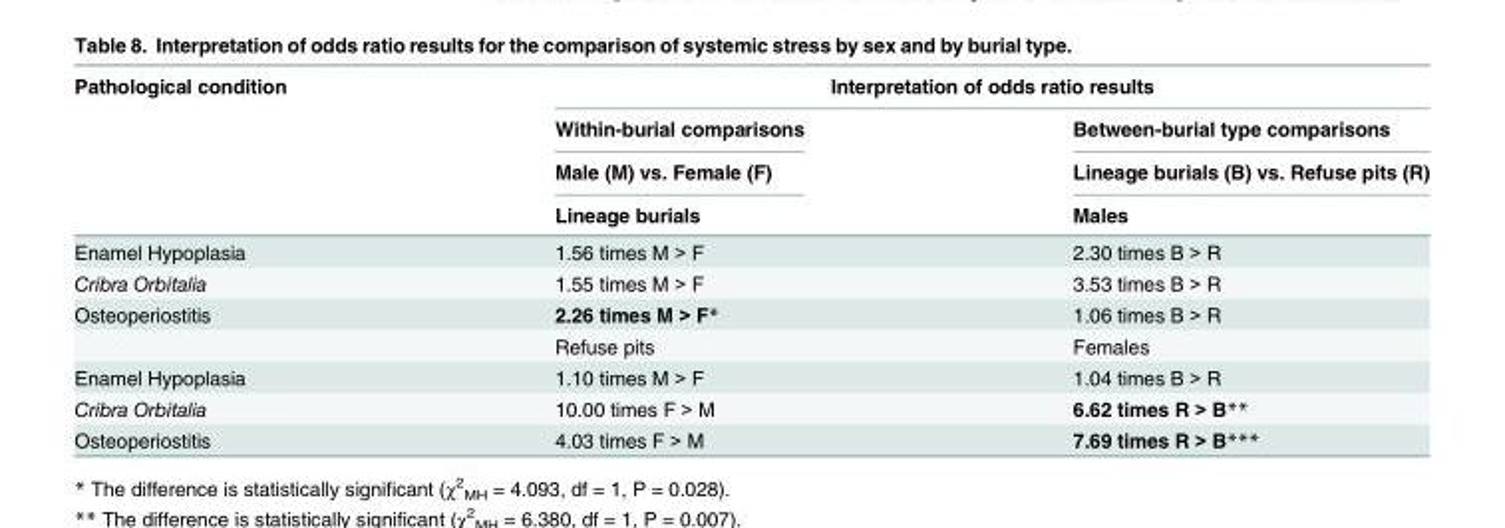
<table><thead><tr><td rowspan="4">Pathological condition</td><td colspan="2">Interpretation of odds ratio results</td></tr><tr><td rowspan="3">Within-burial comparisons Male (M) vs. Female (F) Lineage burials</td><td rowspan="3">Between-burial type comparisons Lineage burials (B) vs. Refuse pits (R) Males</td></tr><tr></tr><tr></tr></thead><tbody><tr><td>Enamel Hypoplasia</td><td>1.56 times M &gt; F</td><td>2.30 times B &gt; R</td></tr><tr><td>Cribra Orbitalia</td><td>1.55 times M &gt; F</td><td>3.53 times B &gt; R</td></tr><tr><td rowspan="2">Osteoperiostitis</td><td>2.26 times M &gt; F*</td><td>1.06 times B &gt; R</td></tr><tr><td>Refuse pits</td><td>Females</td></tr><tr><td>Enamel Hypoplasia</td><td>1.10 times M &gt; F</td><td>1.04 times B &gt; R</td></tr><tr><td>Cribra Orbitalia</td><td>10.00 times F &gt; M</td><td>6.62 times R &gt; B**</td></tr><tr><td>Osteoperiostitis</td><td>4.03 times F &gt; M</td><td>7.69 times R &gt; B***</td></tr></tbody></table>